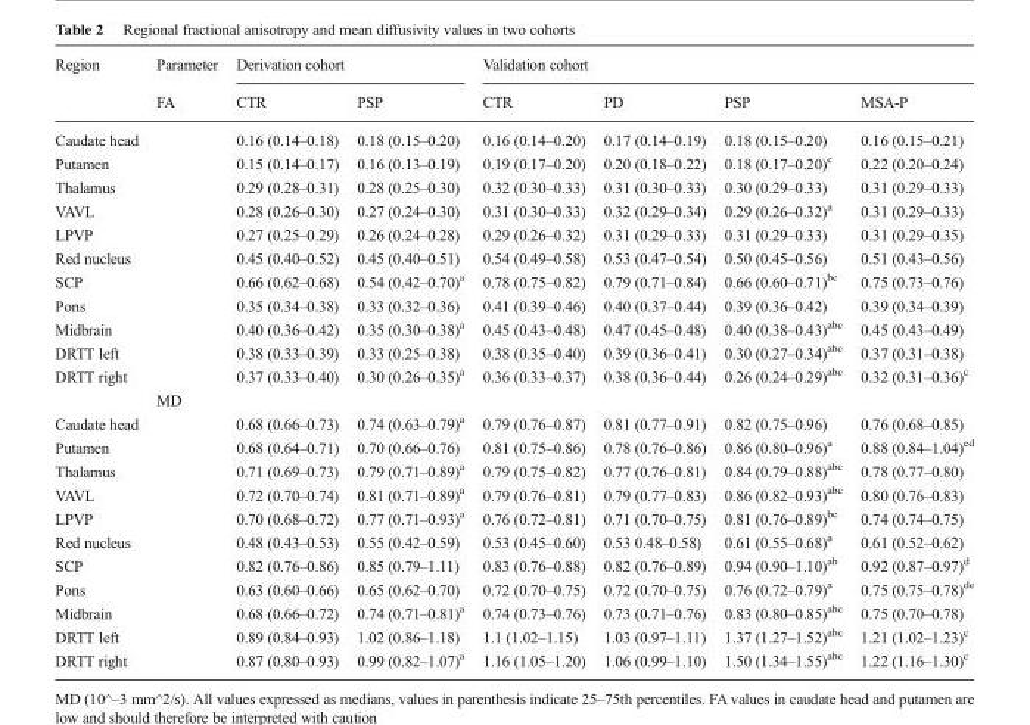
<table><thead><tr><td rowspan="2">Region</td><td rowspan="2">Parameter FA</td><td colspan="2">Derivation cohort</td><td colspan="4">Validation cohort</td></tr><tr><td>CTR</td><td>PSP</td><td>CTR</td><td>PD</td><td>PSP</td><td>MSA-P</td></tr></thead><tbody><tr><td>Caudate head</td><td></td><td>0.16 (0.14–0.18)</td><td>0.18 (0.15–0.20)</td><td>0.16 (0.14–0.20)</td><td>0.17 (0.14–0.19)</td><td>0.18 (0.15–0.20)</td><td>0.16 (0.15–0.21)</td></tr><tr><td>Putamen</td><td></td><td>0.15 (0.14–0.17)</td><td>0.16 (0.13–0.19)</td><td>0.19 (0.17–0.20)</td><td>0.20 (0.18–0.22)</td><td>0.18 (0.17–0.20)<sup>c</sup></td><td>0.22 (0.20–0.24)</td></tr><tr><td>Thalamus</td><td></td><td>0.29 (0.28–0.31)</td><td>0.28 (0.25–0.30)</td><td>0.32 (0.30–0.33)</td><td>0.31 (0.30–0.33)</td><td>0.30 (0.29–0.33)</td><td>0.31 (0.29–0.33)</td></tr><tr><td>VAVL</td><td></td><td>0.28 (0.26–0.30)</td><td>0.27 (0.24–0.30)</td><td>0.31 (0.30–0.33)</td><td>0.32 (0.29–0.34)</td><td>0.29 (0.26–0.32)<sup>a</sup></td><td>0.31 (0.29–0.33)</td></tr><tr><td>LPVP</td><td></td><td>0.27 (0.25–0.29)</td><td>0.26 (0.24–0.28)</td><td>0.29 (0.26–0.32)</td><td>0.31 (0.29–0.33)</td><td>0.31 (0.29–0.33)</td><td>0.31 (0.29–0.35)</td></tr><tr><td>Red nucleus</td><td></td><td>0.45 (0.40–0.52)</td><td>0.45 (0.40–0.51)</td><td>0.54 (0.49–0.58)</td><td>0.53 (0.47–0.54)</td><td>0.50 (0.45–0.56)</td><td>0.51 (0.43–0.56)</td></tr><tr><td>SCP</td><td></td><td>0.66 (0.62–0.68)</td><td>0.54 (0.42–0.70)<sup>a</sup></td><td>0.78 (0.75–0.82)</td><td>0.79 (0.71–0.84)</td><td>0.66 (0.60–0.71)<sup>bc</sup></td><td>0.75 (0.73–0.76)</td></tr><tr><td>Pons</td><td></td><td>0.35 (0.34–0.38)</td><td>0.33 (0.32–0.36)</td><td>0.41 (0.39–0.46)</td><td>0.40 (0.37–0.44)</td><td>0.39 (0.36–0.42)</td><td>0.39 (0.34–0.39)</td></tr><tr><td>Midbrain</td><td></td><td>0.40 (0.36–0.42)</td><td>0.35 (0.30–0.38)<sup>a</sup></td><td>0.45 (0.43–0.48)</td><td>0.47 (0.45–0.48)</td><td>0.40 (0.38–0.43)<sup>abc</sup></td><td>0.45 (0.43–0.49)</td></tr><tr><td>DRTT left</td><td></td><td>0.38 (0.33–0.39)</td><td>0.33 (0.25–0.38)</td><td>0.38 (0.35–0.40)</td><td>0.39 (0.36–0.41)</td><td>0.30 (0.27–0.34)<sup>abc</sup></td><td>0.37 (0.31–0.38)</td></tr><tr><td rowspan="2">DRTT right</td><td></td><td>0.37 (0.33–0.40)</td><td>0.30 (0.26–0.35)<sup>a</sup></td><td>0.36 (0.33–0.37)</td><td>0.38 (0.36–0.44)</td><td>0.26 (0.24–0.29)<sup>abc</sup></td><td>0.32 (0.31–0.36)<sup>c</sup></td></tr><tr><td>MD</td><td></td><td></td><td></td><td></td><td></td><td></td></tr><tr><td>Caudate head</td><td></td><td>0.68 (0.66–0.73)</td><td>0.74 (0.63–0.79)<sup>a</sup></td><td>0.79 (0.76–0.87)</td><td>0.81 (0.77–0.91)</td><td>0.82 (0.75–0.96)</td><td>0.76 (0.68–0.85)</td></tr><tr><td>Putamen</td><td></td><td>0.68 (0.64–0.71)</td><td>0.70 (0.66–0.76)</td><td>0.81 (0.75–0.86)</td><td>0.78 (0.76–0.86)</td><td>0.86 (0.80–0.96)<sup>a</sup></td><td>0.88 (0.84–1.04)<sup>ed</sup></td></tr><tr><td>Thalamus</td><td></td><td>0.71 (0.69–0.73)</td><td>0.79 (0.71–0.89)<sup>a</sup></td><td>0.79 (0.75–0.82)</td><td>0.77 (0.76–0.81)</td><td>0.84 (0.79–0.88)<sup>abc</sup></td><td>0.78 (0.77–0.80)</td></tr><tr><td>VAVL</td><td></td><td>0.72 (0.70–0.74)</td><td>0.81 (0.71–0.89)<sup>a</sup></td><td>0.79 (0.76–0.81)</td><td>0.79 (0.77–0.83)</td><td>0.86 (0.82–0.93)<sup>abc</sup></td><td>0.80 (0.76–0.83)</td></tr><tr><td>LPVP</td><td></td><td>0.70 (0.68–0.72)</td><td>0.77 (0.71–0.93)<sup>a</sup></td><td>0.76 (0.72–0.81)</td><td>0.71 (0.70–0.75)</td><td>0.81 (0.76–0.89)<sup>bc</sup></td><td>0.74 (0.74–0.75)</td></tr><tr><td>Red nucleus</td><td></td><td>0.48 (0.43–0.53)</td><td>0.55 (0.42–0.59)</td><td>0.53 (0.45–0.60)</td><td>0.53 0.48–0.58)</td><td>0.61 (0.55–0.68)<sup>a</sup></td><td>0.61 (0.52–0.62)</td></tr><tr><td>SCP</td><td></td><td>0.82 (0.76–0.86)</td><td>0.85 (0.79–1.11)</td><td>0.83 (0.76–0.88)</td><td>0.82 (0.76–0.89)</td><td>0.94 (0.90–1.10)<sup>ab</sup></td><td>0.92 (0.87–0.97)<sup>d</sup></td></tr><tr><td>Pons</td><td></td><td>0.63 (0.60–0.66)</td><td>0.65 (0.62–0.70)</td><td>0.72 (0.70–0.75)</td><td>0.72 (0.70–0.75)</td><td>0.76 (0.72–0.79)<sup>a</sup></td><td>0.75 (0.75–0.78)<sup>de</sup></td></tr><tr><td>Midbrain</td><td></td><td>0.68 (0.66–0.72)</td><td>0.74 (0.71–0.81)<sup>a</sup></td><td>0.74 (0.73–0.76)</td><td>0.73 (0.71–0.76)</td><td>0.83 (0.80–0.85)<sup>abc</sup></td><td>0.75 (0.70–0.78)</td></tr><tr><td>DRTT left</td><td></td><td>0.89 (0.84–0.93)</td><td>1.02 (0.86–1.18)</td><td>1.1 (1.02–1.15)</td><td>1.03 (0.97–1.11)</td><td>1.37 (1.27–1.52)<sup>abc</sup></td><td>1.21 (1.02–1.23)<sup>c</sup></td></tr><tr><td>DRTT right</td><td></td><td>0.87 (0.80–0.93)</td><td>0.99 (0.82–1.07)<sup>a</sup></td><td>1.16 (1.05–1.20)</td><td>1.06 (0.99–1.10)</td><td>1.50 (1.34–1.55)<sup>abc</sup></td><td>1.22 (1.16–1.30)<sup>c</sup></td></tr></tbody></table>